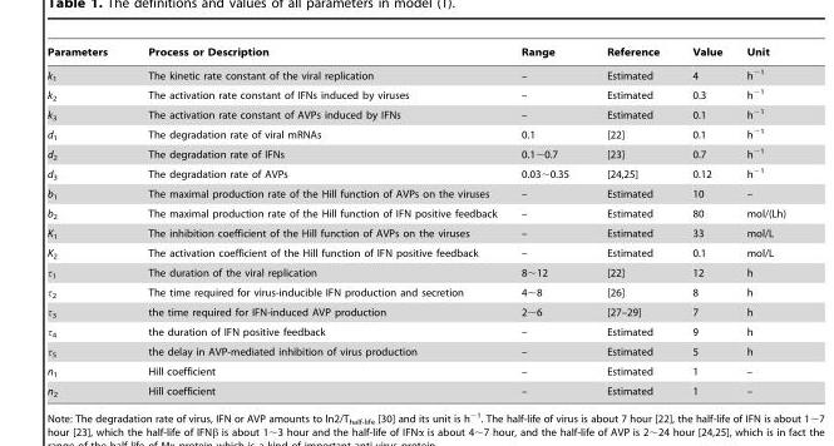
<table><thead><tr><td>Parameters</td><td>Process or Description</td><td>Range</td><td>Reference</td><td>Value</td><td>Unit</td></tr></thead><tbody><tr><td>k<sub>1</sub></td><td>The kinetic rate constant of the viral replication</td><td>–</td><td>Estimated</td><td>4</td><td>h<sup>−1</sup></td></tr><tr><td>k<sub>2</sub></td><td>The activation rate constant of IFNs induced by viruses</td><td>–</td><td>Estimated</td><td>0.3</td><td>h<sup>−1</sup></td></tr><tr><td>k<sub>3</sub></td><td>The activation rate constant of AVPs induced by IFNs</td><td>–</td><td>Estimated</td><td>0.1</td><td>h<sup>−1</sup></td></tr><tr><td>d<sub>1</sub></td><td>The degradation rate of viral mRNAs</td><td>0.1</td><td>[22]</td><td>0.1</td><td>h<sup>−1</sup></td></tr><tr><td>d<sub>2</sub></td><td>The degradation rate of IFNs</td><td>0.1∼0.7</td><td>[23]</td><td>0.7</td><td>h<sup>−1</sup></td></tr><tr><td>d<sub>3</sub></td><td>The degradation rate of AVPs</td><td>0.03∼0.35</td><td>[24,25]</td><td>0.12</td><td>h<sup>−1</sup></td></tr><tr><td>b<sub>1</sub></td><td>The maximal production rate of the Hill function of AVPs on the viruses</td><td>–</td><td>Estimated</td><td>10</td><td>–</td></tr><tr><td>b<sub>2</sub></td><td>The maximal production rate of the Hill function of IFN positive feedback</td><td>–</td><td>Estimated</td><td>80</td><td>mol/(Lh)</td></tr><tr><td>K<sub>1</sub></td><td>The inhibition coefficient of the Hill function of AVPs on the viruses</td><td>–</td><td>Estimated</td><td>33</td><td>mol/L</td></tr><tr><td>K<sub>2</sub></td><td>The activation coefficient of the Hill function of IFN positive feedback</td><td>–</td><td>Estimated</td><td>0.1</td><td>mol/L</td></tr><tr><td>τ<sub>1</sub></td><td>The duration of the viral replication</td><td>8∼12</td><td>[22]</td><td>12</td><td>h</td></tr><tr><td>τ<sub>2</sub></td><td>The time required for virus-inducible IFN production and secretion</td><td>4∼8</td><td>[26]</td><td>8</td><td>h</td></tr><tr><td>τ<sub>3</sub></td><td>the time required for IFN-induced AVP production</td><td>2∼6</td><td>[27–29]</td><td>7</td><td>h</td></tr><tr><td>τ<sub>4</sub></td><td>the duration of IFN positive feedback</td><td>–</td><td>Estimated</td><td>9</td><td>h</td></tr><tr><td>τ<sub>5</sub></td><td>the delay in AVP-mediated inhibition of virus production</td><td>–</td><td>Estimated</td><td>5</td><td>h</td></tr><tr><td>n<sub>1</sub></td><td>Hill coefficient</td><td>–</td><td>Estimated</td><td>1</td><td>–</td></tr><tr><td>n<sub>2</sub></td><td>Hill coefficient</td><td>–</td><td>Estimated</td><td>1</td><td>–</td></tr></tbody></table>